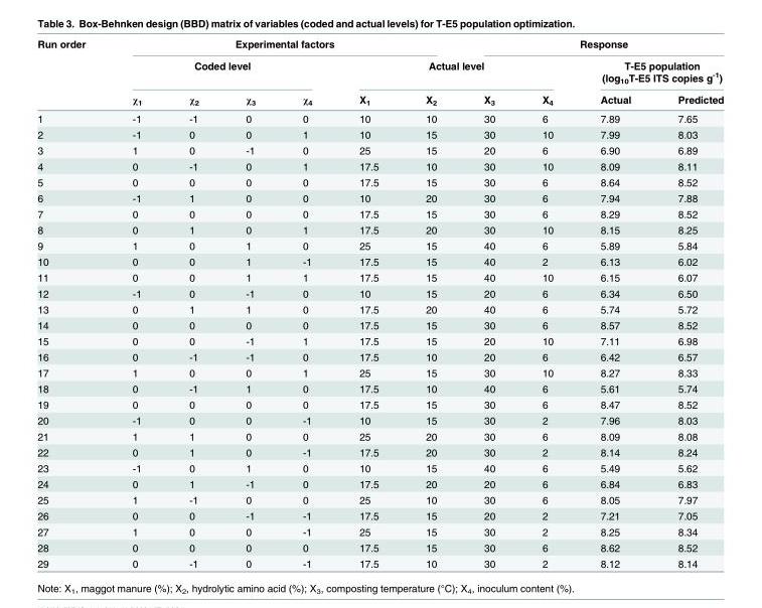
<table><thead><tr><td rowspan="3">Run order</td><td colspan="6">Experimental factors</td><td colspan="4">Response</td></tr><tr><td colspan="4">Coded level</td><td colspan="4">Actual level</td><td colspan="2">T-E5 population (log<sub>10</sub>T-E5 ITS copies g<sup>-1</sup>)</td></tr><tr><td>χ<sub>1</sub></td><td>χ<sub>2</sub></td><td>χ<sub>3</sub></td><td>χ<sub>4</sub></td><td>X<sub>1</sub></td><td>X<sub>2</sub></td><td>X<sub>3</sub></td><td>X<sub>4</sub></td><td>Actual</td><td>Predicted</td></tr></thead><tbody><tr><td>1</td><td>-1</td><td>-1</td><td>0</td><td>0</td><td>10</td><td>10</td><td>30</td><td>6</td><td>7.89</td><td>7.65</td></tr><tr><td>2</td><td>-1</td><td>0</td><td>0</td><td>1</td><td>10</td><td>15</td><td>30</td><td>10</td><td>7.99</td><td>8.03</td></tr><tr><td>3</td><td>1</td><td>0</td><td>-1</td><td>0</td><td>25</td><td>15</td><td>20</td><td>6</td><td>6.90</td><td>6.89</td></tr><tr><td>4</td><td>0</td><td>-1</td><td>0</td><td>1</td><td>17.5</td><td>10</td><td>30</td><td>10</td><td>8.09</td><td>8.11</td></tr><tr><td>5</td><td>0</td><td>0</td><td>0</td><td>0</td><td>17.5</td><td>15</td><td>30</td><td>6</td><td>8.64</td><td>8.52</td></tr><tr><td>6</td><td>-1</td><td>1</td><td>0</td><td>0</td><td>10</td><td>20</td><td>30</td><td>6</td><td>7.94</td><td>7.88</td></tr><tr><td>7</td><td>0</td><td>0</td><td>0</td><td>0</td><td>17.5</td><td>15</td><td>30</td><td>6</td><td>8.29</td><td>8.52</td></tr><tr><td>8</td><td>0</td><td>1</td><td>0</td><td>1</td><td>17.5</td><td>20</td><td>30</td><td>10</td><td>8.15</td><td>8.25</td></tr><tr><td>9</td><td>1</td><td>0</td><td>1</td><td>0</td><td>25</td><td>15</td><td>40</td><td>6</td><td>5.89</td><td>5.84</td></tr><tr><td>10</td><td>0</td><td>0</td><td>1</td><td>-1</td><td>17.5</td><td>15</td><td>40</td><td>2</td><td>6.13</td><td>6.02</td></tr><tr><td>11</td><td>0</td><td>0</td><td>1</td><td>1</td><td>17.5</td><td>15</td><td>40</td><td>10</td><td>6.15</td><td>6.07</td></tr><tr><td>12</td><td>-1</td><td>0</td><td>-1</td><td>0</td><td>10</td><td>15</td><td>20</td><td>6</td><td>6.34</td><td>6.50</td></tr><tr><td>13</td><td>0</td><td>1</td><td>1</td><td>0</td><td>17.5</td><td>20</td><td>40</td><td>6</td><td>5.74</td><td>5.72</td></tr><tr><td>14</td><td>0</td><td>0</td><td>0</td><td>0</td><td>17.5</td><td>15</td><td>30</td><td>6</td><td>8.57</td><td>8.52</td></tr><tr><td>15</td><td>0</td><td>0</td><td>-1</td><td>1</td><td>17.5</td><td>15</td><td>20</td><td>10</td><td>7.11</td><td>6.98</td></tr><tr><td>16</td><td>0</td><td>-1</td><td>-1</td><td>0</td><td>17.5</td><td>10</td><td>20</td><td>6</td><td>6.42</td><td>6.57</td></tr><tr><td>17</td><td>1</td><td>0</td><td>0</td><td>1</td><td>25</td><td>15</td><td>30</td><td>10</td><td>8.27</td><td>8.33</td></tr><tr><td>18</td><td>0</td><td>-1</td><td>1</td><td>0</td><td>17.5</td><td>10</td><td>40</td><td>6</td><td>5.61</td><td>5.74</td></tr><tr><td>19</td><td>0</td><td>0</td><td>0</td><td>0</td><td>17.5</td><td>15</td><td>30</td><td>6</td><td>8.47</td><td>8.52</td></tr><tr><td>20</td><td>-1</td><td>0</td><td>0</td><td>-1</td><td>10</td><td>15</td><td>30</td><td>2</td><td>7.96</td><td>8.03</td></tr><tr><td>21</td><td>1</td><td>1</td><td>0</td><td>0</td><td>25</td><td>20</td><td>30</td><td>6</td><td>8.09</td><td>8.08</td></tr><tr><td>22</td><td>0</td><td>1</td><td>0</td><td>-1</td><td>17.5</td><td>20</td><td>30</td><td>2</td><td>8.14</td><td>8.24</td></tr><tr><td>23</td><td>-1</td><td>0</td><td>1</td><td>0</td><td>10</td><td>15</td><td>40</td><td>6</td><td>5.49</td><td>5.62</td></tr><tr><td>24</td><td>0</td><td>1</td><td>-1</td><td>0</td><td>17.5</td><td>20</td><td>20</td><td>6</td><td>6.84</td><td>6.83</td></tr><tr><td>25</td><td>1</td><td>-1</td><td>0</td><td>0</td><td>25</td><td>10</td><td>30</td><td>6</td><td>8.05</td><td>7.97</td></tr><tr><td>26</td><td>0</td><td>0</td><td>-1</td><td>-1</td><td>17.5</td><td>15</td><td>20</td><td>2</td><td>7.21</td><td>7.05</td></tr><tr><td>27</td><td>1</td><td>0</td><td>0</td><td>-1</td><td>25</td><td>15</td><td>30</td><td>2</td><td>8.25</td><td>8.34</td></tr><tr><td>28</td><td>0</td><td>0</td><td>0</td><td>0</td><td>17.5</td><td>15</td><td>30</td><td>6</td><td>8.62</td><td>8.52</td></tr><tr><td>29</td><td>0</td><td>-1</td><td>0</td><td>-1</td><td>17.5</td><td>10</td><td>30</td><td>2</td><td>8.12</td><td>8.14</td></tr></tbody></table>